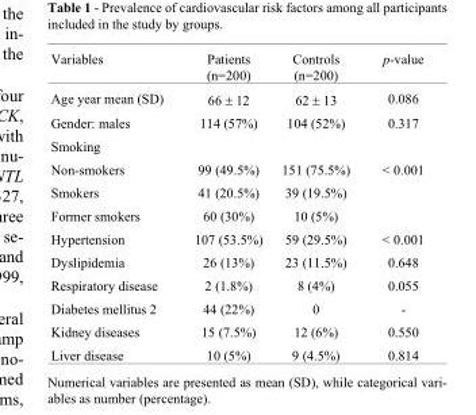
<table><thead><tr><td>Variables</td><td>Patients (n=200)</td><td>Controls (n=200)</td><td>p-value</td></tr></thead><tbody><tr><td>Age year mean (SD)</td><td>66 ± 12</td><td>62 ± 13</td><td>0.086</td></tr><tr><td>Gender: males</td><td>114 (57%)</td><td>104 (52%)</td><td>0.317</td></tr><tr><td colspan="4">Smoking</td></tr><tr><td>Non-smokers</td><td>99 (49.5%)</td><td>151 (75.5%)</td><td>&lt; 0.001</td></tr><tr><td>Smokers</td><td>41 (20.5%)</td><td>39 (19.5%)</td><td></td></tr><tr><td>Former smokers</td><td>60 (30%)</td><td>10 (5%)</td><td></td></tr><tr><td>Hypertension</td><td>107 (53.5%)</td><td>59 (29.5%)</td><td>&lt; 0.001</td></tr><tr><td>Dyslipidemia</td><td>26 (13%)</td><td>23 (11.5%)</td><td>0.648</td></tr><tr><td>Respiratory disease</td><td>2 (1.8%)</td><td>8 (4%)</td><td>0.055</td></tr><tr><td>Diabetes mellitus 2</td><td>44 (22%)</td><td>0</td><td>-</td></tr><tr><td>Kidney diseases</td><td>15 (7.5%)</td><td>12 (6%)</td><td>0.550</td></tr><tr><td>Liver disease</td><td>10 (5%)</td><td>9 (4.5%)</td><td>0.814</td></tr></tbody></table>